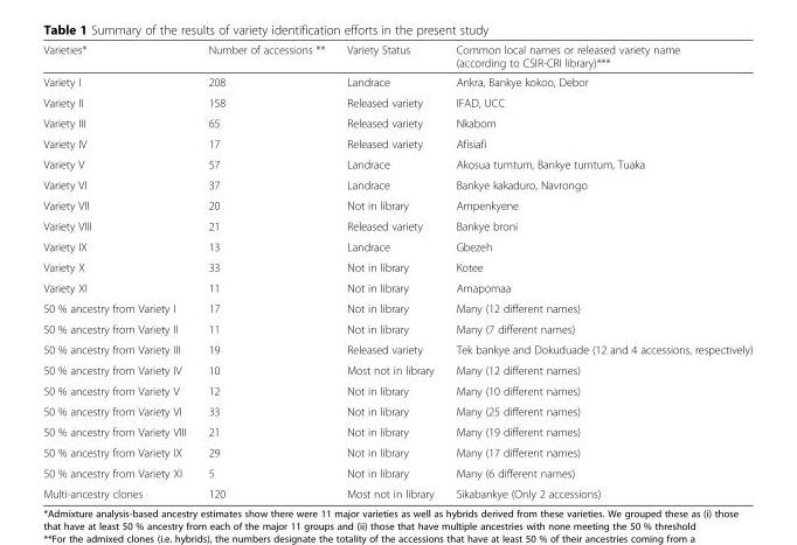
<table><thead><tr><td>Varieties*</td><td>Number of accessions **</td><td>Variety Status</td><td>Common local names or released variety name (according to CSIR-CRI library)***</td></tr></thead><tbody><tr><td>Variety I</td><td>208</td><td>Landrace</td><td>Ankra, Bankye kokoo, Debor</td></tr><tr><td>Variety II</td><td>158</td><td>Released variety</td><td>IFAD, UCC</td></tr><tr><td>Variety III</td><td>65</td><td>Released variety</td><td>Nkabom</td></tr><tr><td>Variety IV</td><td>17</td><td>Released variety</td><td>Afisiafi</td></tr><tr><td>Variety V</td><td>57</td><td>Landrace</td><td>Akosua tumtum, Bankye tumtum, Tuaka</td></tr><tr><td>Variety VI</td><td>37</td><td>Landrace</td><td>Bankye kakaduro, Navrongo</td></tr><tr><td>Variety VII</td><td>20</td><td>Not in library</td><td>Ampenkyene</td></tr><tr><td>Variety VIII</td><td>21</td><td>Released variety</td><td>Bankye broni</td></tr><tr><td>Variety IX</td><td>13</td><td>Landrace</td><td>Gbezeh</td></tr><tr><td>Variety X</td><td>33</td><td>Not in library</td><td>Kotee</td></tr><tr><td>Variety XI</td><td>11</td><td>Not in library</td><td>Amapomaa</td></tr><tr><td>50 % ancestry from Variety I</td><td>17</td><td>Not in library</td><td>Many (12 different names)</td></tr><tr><td>50 % ancestry from Variety II</td><td>11</td><td>Not in library</td><td>Many (7 different names)</td></tr><tr><td>50 % ancestry from Variety III</td><td>19</td><td>Released variety</td><td>Tek bankye and Dokuduade (12 and 4 accessions, respectively)</td></tr><tr><td>50 % ancestry from Variety IV</td><td>10</td><td>Most not in library</td><td>Many (12 different names)</td></tr><tr><td>50 % ancestry from Variety V</td><td>12</td><td>Not in library</td><td>Many (10 different names)</td></tr><tr><td>50 % ancestry from Variety VI</td><td>33</td><td>Not in library</td><td>Many (25 different names)</td></tr><tr><td>50 % ancestry from Variety VIII</td><td>21</td><td>Not in library</td><td>Many (19 different names)</td></tr><tr><td>50 % ancestry from Variety IX</td><td>29</td><td>Not in library</td><td>Many (17 different names)</td></tr><tr><td>50 % ancestry from Variety XI</td><td>5</td><td>Not in library</td><td>Many (6 different names)</td></tr><tr><td>Multi-ancestry clones</td><td>120</td><td>Most not in library</td><td>Sikabankye (Only 2 accessions)</td></tr></tbody></table>